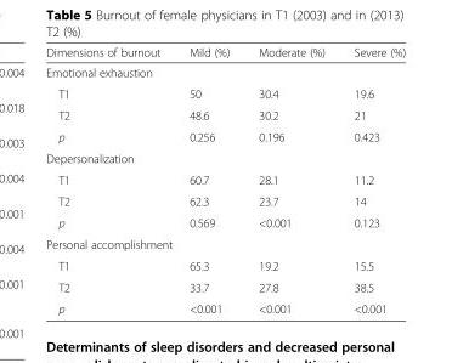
<table><thead><tr><td>Dimensions of burnout</td><td>Mild (%)</td><td>Moderate (%)</td><td>Severe (%)</td></tr></thead><tbody><tr><td colspan="4">Emotional exhaustion</td></tr><tr><td>T1</td><td>50</td><td>30.4</td><td>19.6</td></tr><tr><td>T2</td><td>48.6</td><td>30.2</td><td>21</td></tr><tr><td>p</td><td>0.256</td><td>0.196</td><td>0.423</td></tr><tr><td colspan="4">Depersonalization</td></tr><tr><td>T1</td><td>60.7</td><td>28.1</td><td>11.2</td></tr><tr><td>T2</td><td>62.3</td><td>23.7</td><td>14</td></tr><tr><td>p</td><td>0.569</td><td>&lt;0.001</td><td>0.123</td></tr><tr><td colspan="4">Personal accomplishment</td></tr><tr><td>T1</td><td>65.3</td><td>19.2</td><td>15.5</td></tr><tr><td>T2</td><td>33.7</td><td>27.8</td><td>38.5</td></tr><tr><td>p</td><td>&lt;0.001</td><td>&lt;0.001</td><td>&lt;0.001</td></tr></tbody></table>